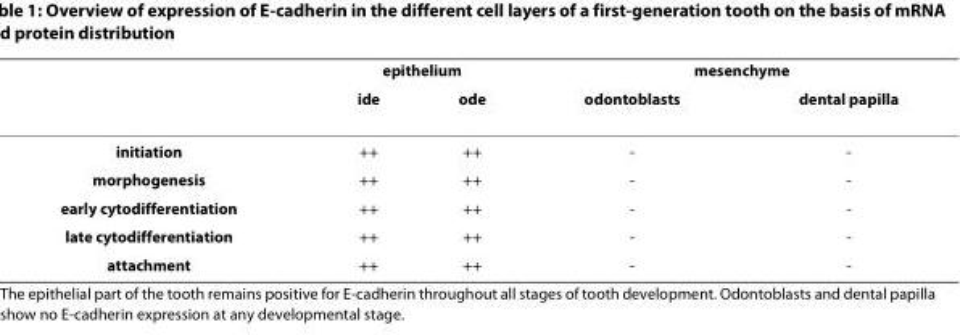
<table><thead><tr><td rowspan="2"></td><td colspan="2">epithelium</td><td colspan="2">mesenchyme</td></tr><tr><td>ide</td><td>ode</td><td>odontoblasts</td><td>dental papilla</td></tr></thead><tbody><tr><td>initiation</td><td>++</td><td>++</td><td>-</td><td>-</td></tr><tr><td>morphogenesis</td><td>++</td><td>++</td><td>-</td><td>-</td></tr><tr><td>early cytodifferentiation</td><td>++</td><td>++</td><td>-</td><td>-</td></tr><tr><td>late cytodifferentiation</td><td>++</td><td>++</td><td>-</td><td>-</td></tr><tr><td>attachment</td><td>++</td><td>++</td><td>-</td><td>-</td></tr></tbody></table>